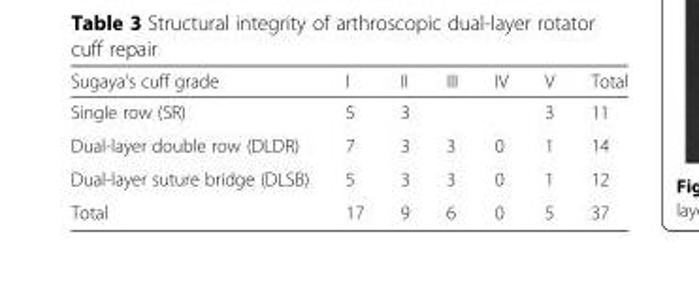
<table><thead><tr><td>Sugaya’s cuff grade</td><td>I</td><td>II</td><td>III</td><td>IV</td><td>V</td><td>Total</td></tr></thead><tbody><tr><td>Single row (SR)</td><td>5</td><td>3</td><td></td><td></td><td>3</td><td>11</td></tr><tr><td>Dual-layer double row (DLDR)</td><td>7</td><td>3</td><td>3</td><td>0</td><td>1</td><td>14</td></tr><tr><td>Dual-layer suture bridge (DLSB)</td><td>5</td><td>3</td><td>3</td><td>0</td><td>1</td><td>12</td></tr><tr><td>Total</td><td>17</td><td>9</td><td>6</td><td>0</td><td>5</td><td>37</td></tr></tbody></table>